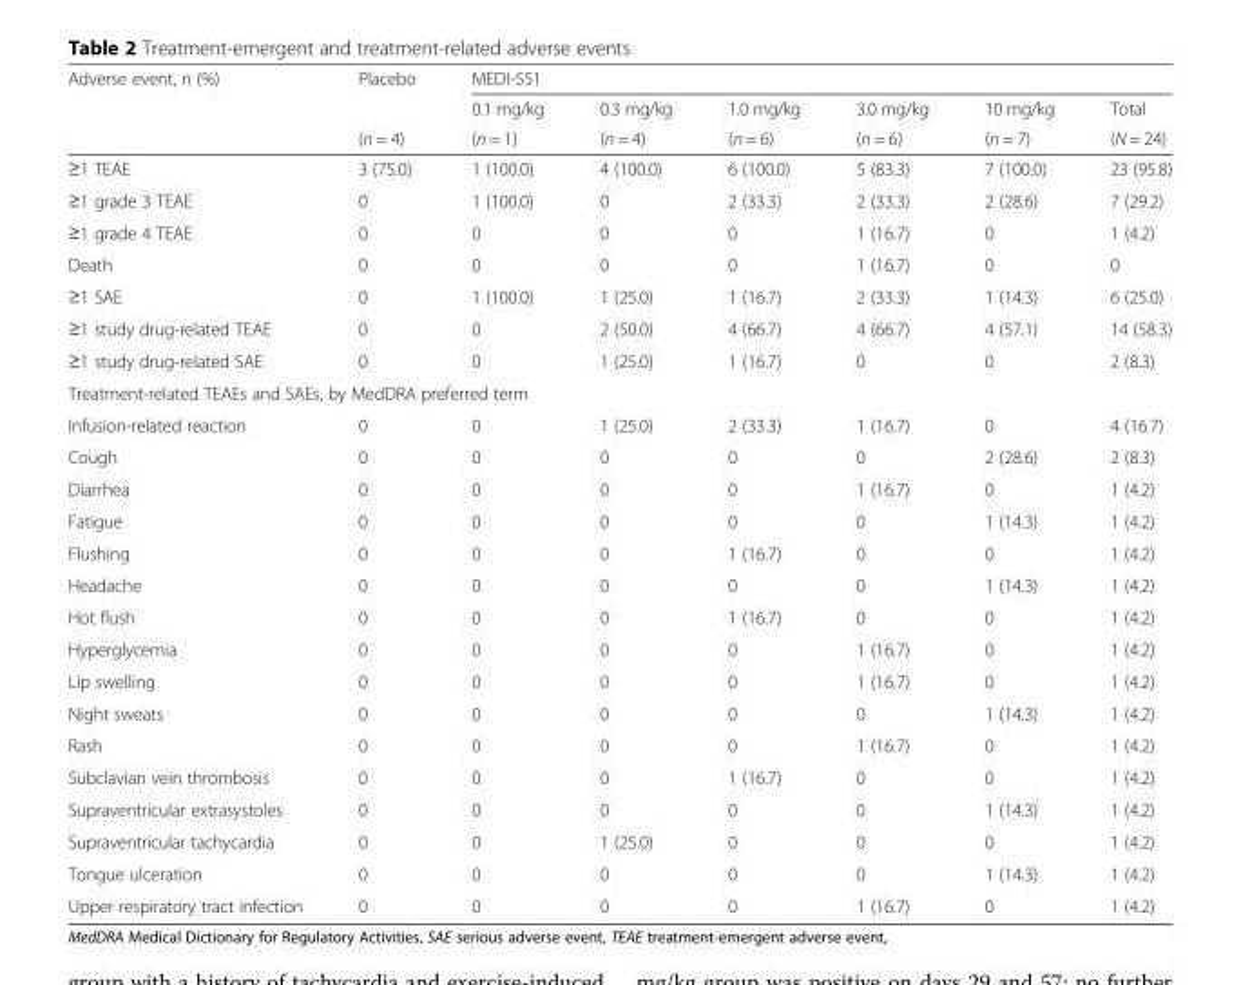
<table><thead><tr><td rowspan="3">Adverse event, n (%)</td><td rowspan="3">Placebo (n = 4)</td><td colspan="6">MEDI-551</td></tr><tr><td rowspan="2">0.1 mg/kg (n = 1)</td><td rowspan="2">0.3 mg/kg (n = 4)</td><td rowspan="2">1.0 mg/kg (n = 6)</td><td rowspan="2">3.0 mg/kg (n = 6)</td><td rowspan="2">10 mg/kg (n = 7)</td><td rowspan="2">Total (N = 24)</td></tr><tr></tr></thead><tbody><tr><td>≥1 TEAE</td><td>3 (75.0)</td><td>1 (100.0)</td><td>4 (100.0)</td><td>6 (100.0)</td><td>5 (83.3)</td><td>7 (100.0)</td><td>23 (95.8)</td></tr><tr><td>≥1 grade 3 TEAE</td><td>0</td><td>1 (100.0)</td><td>0</td><td>2 (33.3)</td><td>2 (33.3)</td><td>2 (28.6)</td><td>7 (29.2)</td></tr><tr><td>≥1 grade 4 TEAE</td><td>0</td><td>0</td><td>0</td><td>0</td><td>1 (16.7)</td><td>0</td><td>1 (4.2)</td></tr><tr><td>Death</td><td>0</td><td>0</td><td>0</td><td>0</td><td>1 (16.7)</td><td>0</td><td>0</td></tr><tr><td>≥1 SAE</td><td>0</td><td>1 (100.0)</td><td>1 (25.0)</td><td>1 (16.7)</td><td>2 (33.3)</td><td>1 (14.3)</td><td>6 (25.0)</td></tr><tr><td>≥1 study drug-related TEAE</td><td>0</td><td>0</td><td>2 (50.0)</td><td>4 (66.7)</td><td>4 (66.7)</td><td>4 (57.1)</td><td>14 (58.3)</td></tr><tr><td>≥1 study drug-related SAE</td><td>0</td><td>0</td><td>1 (25.0)</td><td>1 (16.7)</td><td>0</td><td>0</td><td>2 (8.3)</td></tr><tr><td colspan="8">Treatment-related TEAEs and SAEs, by MedDRA preferred term</td></tr><tr><td>Infusion-related reaction</td><td>0</td><td>0</td><td>1 (25.0)</td><td>2 (33.3)</td><td>1 (16.7)</td><td>0</td><td>4 (16.7)</td></tr><tr><td>Cough</td><td>0</td><td>0</td><td>0</td><td>0</td><td>0</td><td>2 (28.6)</td><td>2 (8.3)</td></tr><tr><td>Diarrhea</td><td>0</td><td>0</td><td>0</td><td>0</td><td>1 (16.7)</td><td>0</td><td>1 (4.2)</td></tr><tr><td>Fatigue</td><td>0</td><td>0</td><td>0</td><td>0</td><td>0</td><td>1 (14.3)</td><td>1 (4.2)</td></tr><tr><td>Flushing</td><td>0</td><td>0</td><td>0</td><td>1 (16.7)</td><td>0</td><td>0</td><td>1 (4.2)</td></tr><tr><td>Headache</td><td>0</td><td>0</td><td>0</td><td>0</td><td>0</td><td>1 (14.3)</td><td>1 (4.2)</td></tr><tr><td>Hot flush</td><td>0</td><td>0</td><td>0</td><td>1 (16.7)</td><td>0</td><td>0</td><td>1 (4.2)</td></tr><tr><td>Hyperglycemia</td><td>0</td><td>0</td><td>0</td><td>0</td><td>1 (16.7)</td><td>0</td><td>1 (4.2)</td></tr><tr><td>Lip swelling</td><td>0</td><td>0</td><td>0</td><td>0</td><td>1 (16.7)</td><td>0</td><td>1 (4.2)</td></tr><tr><td>Night sweats</td><td>0</td><td>0</td><td>0</td><td>0</td><td>0</td><td>1 (14.3)</td><td>1 (4.2)</td></tr><tr><td>Rash</td><td>0</td><td>0</td><td>0</td><td>0</td><td>1 (16.7)</td><td>0</td><td>1 (4.2)</td></tr><tr><td>Subclavian vein thrombosis</td><td>0</td><td>0</td><td>0</td><td>1 (16.7)</td><td>0</td><td>0</td><td>1 (4.2)</td></tr><tr><td>Supraventricular extrasystoles</td><td>0</td><td>0</td><td>0</td><td>0</td><td>0</td><td>1 (14.3)</td><td>1 (4.2)</td></tr><tr><td>Supraventricular tachycardia</td><td>0</td><td>0</td><td>1 (25.0)</td><td>0</td><td>0</td><td>0</td><td>1 (4.2)</td></tr><tr><td>Tongue ulceration</td><td>0</td><td>0</td><td>0</td><td>0</td><td>0</td><td>1 (14.3)</td><td>1 (4.2)</td></tr><tr><td>Upper respiratory tract infection</td><td>0</td><td>0</td><td>0</td><td>0</td><td>1 (16.7)</td><td>0</td><td>1 (4.2)</td></tr></tbody></table>